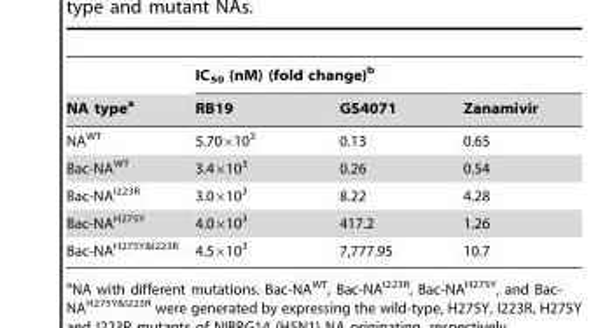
<table><thead><tr><td rowspan="2">NA type<sup>a</sup></td><td colspan="3">IC<sub>50</sub> (nM) (fold change)<sup>b</sup></td></tr><tr><td>RB19</td><td>GS4071</td><td>Zanamivir</td></tr></thead><tbody><tr><td>NA<sup>WT</sup></td><td>5.70×10<sup>3</sup></td><td>0.13</td><td>0.65</td></tr><tr><td>Bac-NA<sup>WT</sup></td><td>3.4×10<sup>3</sup></td><td>0.26</td><td>0.54</td></tr><tr><td>Bac-NA<sup>I223R</sup></td><td>3.0×10<sup>3</sup></td><td>8.22</td><td>4.28</td></tr><tr><td>Bac-NA<sup>H275Y</sup></td><td>4.0×10<sup>3</sup></td><td>417.2</td><td>1.26</td></tr><tr><td>Bac-NA<sup>H275Y&amp;I223R</sup></td><td>4.5×10<sup>3</sup></td><td>7,777.95</td><td>10.7</td></tr></tbody></table>